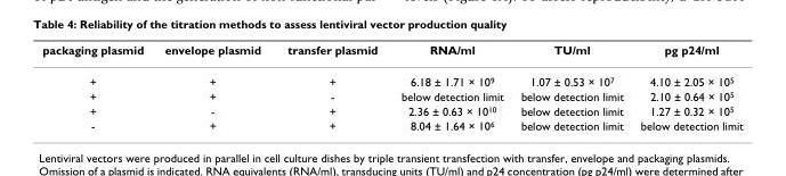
<table><thead><tr><td>packaging plasmid</td><td>envelope plasmid</td><td>transfer plasmid</td><td>RNA/ml</td><td>TU/ml</td><td>pg p24/ml</td></tr></thead><tbody><tr><td>+</td><td>+</td><td>+</td><td>6.18 ± 1.71 × 109</td><td>1.07 ± 0.53 × 107</td><td>4.10 ± 2.05 × 105</td></tr><tr><td>+</td><td>+</td><td>-</td><td>below detection limit</td><td>below detection limit</td><td>2.10 ± 0.64 × 105</td></tr><tr><td>+</td><td>-</td><td>+</td><td>2.36 ± 0.63 × 1010</td><td>below detection limit</td><td>1.27 ± 0.32 × 105</td></tr><tr><td>-</td><td>+</td><td>+</td><td>8.04 ± 1.64 × 106</td><td>below detection limit</td><td>below detection limit</td></tr></tbody></table>